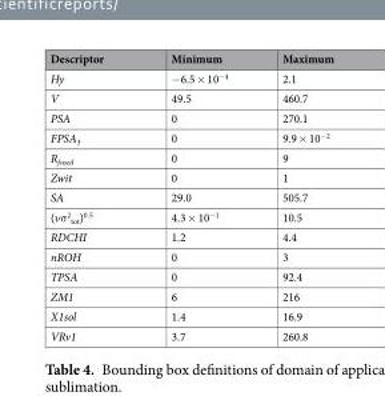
<table><thead><tr><td>Descriptor</td><td>Minimum</td><td>Maximum</td></tr></thead><tbody><tr><td>Hy</td><td>−6.5 × 10<sup>−4</sup></td><td>2.1</td></tr><tr><td>V</td><td>49.5</td><td>460.7</td></tr><tr><td>PSA</td><td>0</td><td>270.1</td></tr><tr><td>FPSA<sub>3</sub></td><td>0</td><td>9.9 × 10<sup>−2</sup></td></tr><tr><td>R<sub>fused</sub></td><td>0</td><td>9</td></tr><tr><td>Zwit</td><td>0</td><td>1</td></tr><tr><td>SA</td><td>29.0</td><td>505.7</td></tr><tr><td>(νσ<sup>2</sup> <sub>tot</sub>)<sup>0.5</sup></td><td>4.3 × 10<sup>−1</sup></td><td>10.5</td></tr><tr><td>RDCHI</td><td>1.2</td><td>4.4</td></tr><tr><td>nROH</td><td>0</td><td>3</td></tr><tr><td>TPSA</td><td>0</td><td>92.4</td></tr><tr><td>ZM1</td><td>6</td><td>216</td></tr><tr><td>X1sol</td><td>1.4</td><td>16.9</td></tr><tr><td>VRv1</td><td>3.7</td><td>260.8</td></tr></tbody></table>